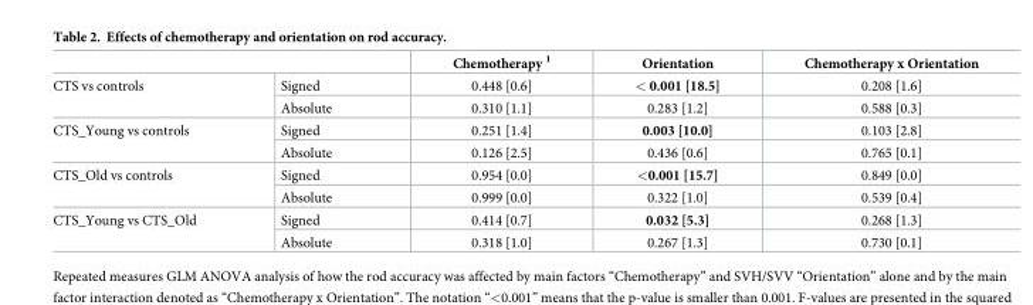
<table><thead><tr><td></td><td></td><td>Chemotherapy <sup>1</sup></td><td>Orientation</td><td>Chemotherapy x Orientation</td></tr></thead><tbody><tr><td rowspan="2">CTS vs controls</td><td>Signed</td><td>0.448 [0.6]</td><td>&lt; 0.001 [18.5]</td><td>0.208 [1.6]</td></tr><tr><td>Absolute</td><td>0.310 [1.1]</td><td>0.283 [1.2]</td><td>0.588 [0.3]</td></tr><tr><td rowspan="2">CTS_Young vs controls</td><td>Signed</td><td>0.251 [1.4]</td><td>0.003 [10.0]</td><td>0.103 [2.8]</td></tr><tr><td>Absolute</td><td>0.126 [2.5]</td><td>0.436 [0.6]</td><td>0.765 [0.1]</td></tr><tr><td rowspan="2">CTS_Old vs controls</td><td>Signed</td><td>0.954 [0.0]</td><td>&lt;0.001 [15.7]</td><td>0.849 [0.0]</td></tr><tr><td>Absolute</td><td>0.999 [0.0]</td><td>0.322 [1.0]</td><td>0.539 [0.4]</td></tr><tr><td rowspan="2">CTS_Young vs CTS_Old</td><td>Signed</td><td>0.414 [0.7]</td><td>0.032 [5.3]</td><td>0.268 [1.3]</td></tr><tr><td>Absolute</td><td>0.318 [1.0]</td><td>0.267 [1.3]</td><td>0.730 [0.1]</td></tr></tbody></table>